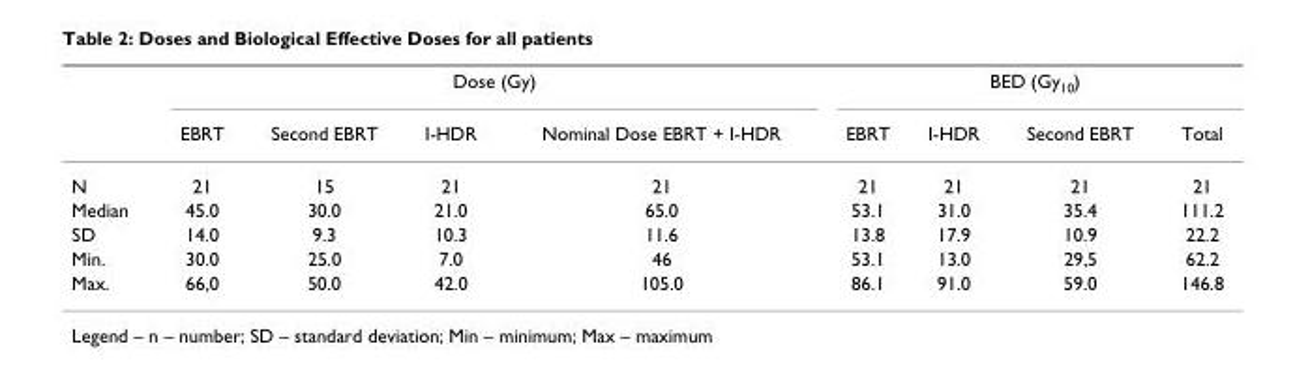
<table><thead><tr><td rowspan="2"></td><td colspan="4">Dose (Gy)</td><td colspan="4">BED (Gy<sub>10</sub>)</td></tr><tr><td>EBRT</td><td>Second EBRT</td><td>I-HDR</td><td>Nominal Dose EBRT + I-HDR</td><td>EBRT</td><td>I-HDR</td><td>Second EBRT</td><td>Total</td></tr></thead><tbody><tr><td>N</td><td>21</td><td>15</td><td>21</td><td>21</td><td>21</td><td>21</td><td>21</td><td>21</td></tr><tr><td>Median</td><td>45.0</td><td>30.0</td><td>21.0</td><td>65.0</td><td>53.1</td><td>31.0</td><td>35.4</td><td>111.2</td></tr><tr><td>SD</td><td>14.0</td><td>9.3</td><td>10.3</td><td>11.6</td><td>13.8</td><td>17.9</td><td>10.9</td><td>22.2</td></tr><tr><td>Min.</td><td>30.0</td><td>25.0</td><td>7.0</td><td>46</td><td>53.1</td><td>13.0</td><td>29,5</td><td>62.2</td></tr><tr><td>Max.</td><td>66,0</td><td>50.0</td><td>42.0</td><td>105.0</td><td>86.1</td><td>91.0</td><td>59.0</td><td>146.8</td></tr></tbody></table>